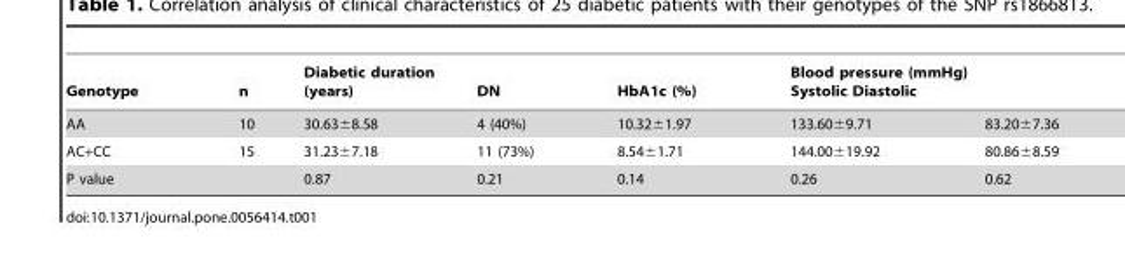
<table><thead><tr><td rowspan="2">Genotype AA</td><td rowspan="2">n 10</td><td rowspan="2">Diabetic duration (years) 30.63±8.58</td><td rowspan="2">DN 4 (40%)</td><td rowspan="2">HbA1c (%) 10.32±1.97</td><td colspan="2">Blood pressure (mmHg) Systolic Diastolic</td></tr><tr><td>133.60±9.71</td><td>83.20±7.36</td></tr></thead><tbody><tr><td>AC+CC</td><td>15</td><td>31.23±7.18</td><td>11 (73%)</td><td>8.54±1.71</td><td>144.00±19.92</td><td>80.86±8.59</td></tr><tr><td>P value</td><td></td><td>0.87</td><td>0.21</td><td>0.14</td><td>0.26</td><td>0.62</td></tr></tbody></table>